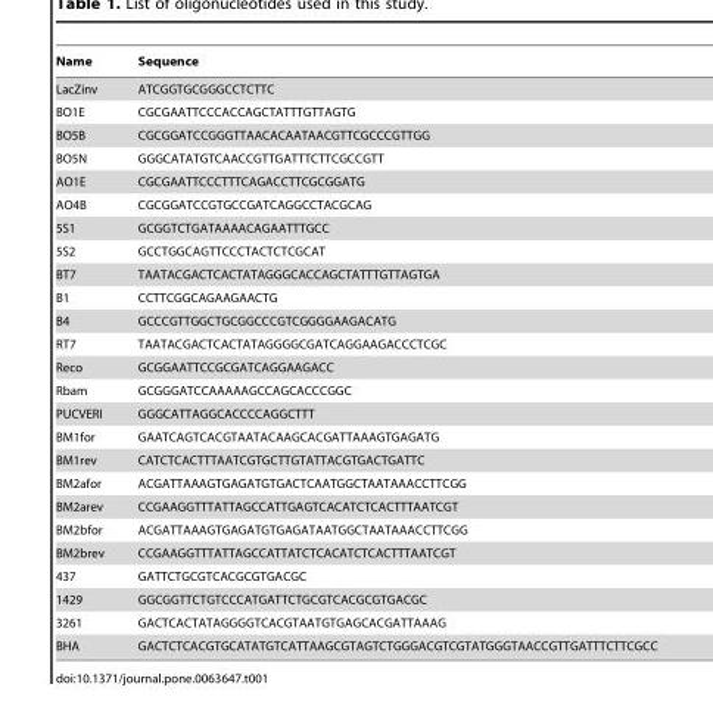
<table><thead><tr><td>Name</td><td>Sequence</td></tr></thead><tbody><tr><td>LacZinv</td><td>ATCGGTGCGGGCCTCTTC</td></tr><tr><td>BO1E</td><td>CGCGAATTCCCACCAGCTATTTGTTAGTG</td></tr><tr><td>BO5B</td><td>CGCGGATCCGGGTTAACACAATAACGTTCGCCCGTTGG</td></tr><tr><td>BO5N</td><td>GGGCATATGTCAACCGTTGATTTCTTCGCCGTT</td></tr><tr><td>AO1E</td><td>CGCGAATTCCCTTTCAGACCTTCGCGGATG</td></tr><tr><td>AO4B</td><td>CGCGGATCCGTGCCGATCAGGCCTACGCAG</td></tr><tr><td>5S1</td><td>GCGGTCTGATAAAACAGAATTTGCC</td></tr><tr><td>5S2</td><td>GCCTGGCAGTTCCCTACTCTCGCAT</td></tr><tr><td>BT7</td><td>TAATACGACTCACTATAGGGCACCAGCTATTTGTTAGTGA</td></tr><tr><td>B1</td><td>CCTTCGGCAGAAGAACTG</td></tr><tr><td>B4</td><td>GCCCGTTGGCTGCGGCCCGTCGGGGAAGACATG</td></tr><tr><td>RT7</td><td>TAATACGACTCACTATAGGGGCGATCAGGAAGACCCTCGC</td></tr><tr><td>Reco</td><td>GCGGAATTCCGCGATCAGGAAGACC</td></tr><tr><td>Rbam</td><td>GCGGGATCCAAAAAGCCAGCACCCGGC</td></tr><tr><td>PUCVERI</td><td>GGGCATTAGGCACCCCAGGCTTT</td></tr><tr><td>BM1for</td><td>GAATCAGTCACGTAATACAAGCACGATTAAAGTGAGATG</td></tr><tr><td>BM1rev</td><td>CATCTCACTTTAATCGTGCTTGTATTACGTGACTGATTC</td></tr><tr><td>BM2afor</td><td>ACGATTAAAGTGAGATGTGACTCAATGGCTAATAAACCTTCGG</td></tr><tr><td>BM2arev</td><td>CCGAAGGTTTATTAGCCATTGAGTCACATCTCACTTTAATCGT</td></tr><tr><td>BM2bfor</td><td>ACGATTAAAGTGAGATGTGAGATAATGGCTAATAAACCTTCGG</td></tr><tr><td>BM2brev</td><td>CCGAAGGTTTATTAGCCATTATCTCACATCTCACTTTAATCGT</td></tr><tr><td>437</td><td>GATTCTGCGTCACGCGTGACGC</td></tr><tr><td>1429</td><td>GGCGGTTCTGTCCCATGATTCTGCGTCACGCGTGACGC</td></tr><tr><td>3261</td><td>GACTCACTATAGGGGTCACGTAATGTGAGCACGATTAAAG</td></tr><tr><td>BHA</td><td>GACTCTCACGTGCATATGTCATTAAGCGTAGTCTGGGACGTCGTATGGGTAACCGTTGATTTCTTCGCC</td></tr></tbody></table>